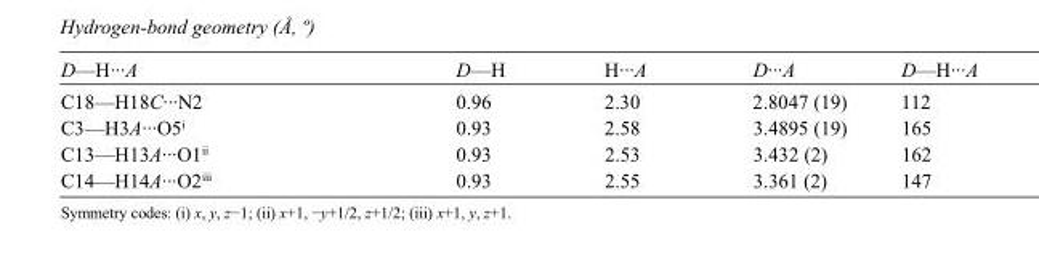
<table><tbody><tr><td>D—H···A</td><td>D—H</td><td>H···A</td><td>D···A</td><td>D—H···A</td></tr><tr><td>C18—H18C···N2</td><td>0.96</td><td>2.30</td><td>2.8047 (19)</td><td>112</td></tr><tr><td>C3—H3A···O5<sup>i</sup></td><td>0.93</td><td>2.58</td><td>3.4895 (19)</td><td>165</td></tr><tr><td>C13—H13A···O1<sup>ii</sup></td><td>0.93</td><td>2.53</td><td>3.432 (2)</td><td>162</td></tr><tr><td>C14—H14A···O2<sup>iii</sup></td><td>0.93</td><td>2.55</td><td>3.361 (2)</td><td>147</td></tr></tbody></table>